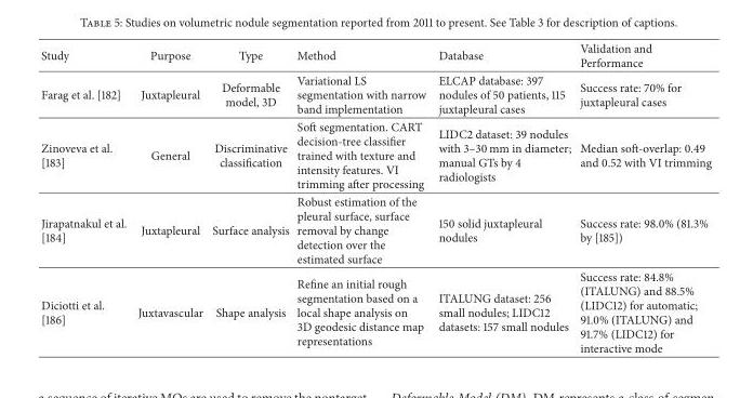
<table><thead><tr><td>Study</td><td>Purpose</td><td>Type</td><td>Method</td><td>Database</td><td>Validation and Performance</td></tr></thead><tbody><tr><td>Farag et al. [182]</td><td>Juxtapleural</td><td>Deformable model, 3D</td><td>Variational LS segmentation with narrow band implementation</td><td>ELCAP database: 397 nodules of 50 patients, 115 juxtapleural cases</td><td>Success rate: 70% for juxtapleural cases</td></tr><tr><td>Zinoveva et al. [183]</td><td>General</td><td>Discriminative classification</td><td>Soft segmentation. CART decision-tree classifier trained with texture and intensity features. VI trimming after processing</td><td>LIDC2 dataset: 39 nodules with 3–30 mm in diameter; manual GTs by 4 radiologists</td><td>Median soft-overlap: 0.49 and 0.52 with VI trimming</td></tr><tr><td>Jirapatnakul et al. [184]</td><td>Juxtapleural</td><td>Surface analysis</td><td>Robust estimation of the pleural surface, surface removal by change detection over the estimated surface</td><td>150 solid juxtapleural nodules</td><td>Success rate: 98.0% (81.3% by [185])</td></tr><tr><td>Diciotti et al. [186]</td><td>Juxtavascular</td><td>Shape analysis</td><td>Refine an initial rough segmentation based on a local shape analysis on 3D geodesic distance map representations</td><td>ITALUNG dataset: 256 small nodules; LIDC12 datasets: 157 small nodules</td><td>Success rate: 84.8% (ITALUNG) and 88.5% (LIDC12) for automatic; 91.0% (ITALUNG) and 91.7% (LIDC12) for interactive mode</td></tr></tbody></table>